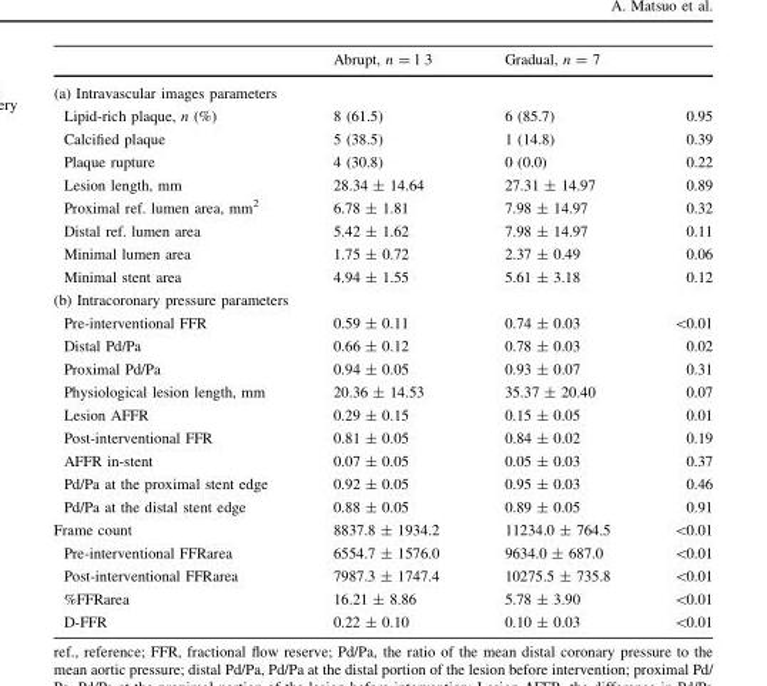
<table><thead><tr><td></td><td>Abrupt, n = l 3</td><td>Gradual, n = 7</td><td></td></tr></thead><tbody><tr><td colspan="4">(a) Intravascular images parameters</td></tr><tr><td>Lipid-rich plaque, n (%)</td><td>8 (61.5)</td><td>6 (85.7)</td><td>0.95</td></tr><tr><td>Calcified plaque</td><td>5 (38.5)</td><td>1 (14.8)</td><td>0.39</td></tr><tr><td>Plaque rupture</td><td>4 (30.8)</td><td>0 (0.0)</td><td>0.22</td></tr><tr><td>Lesion length, mm</td><td>28.34 ± 14.64</td><td>27.31 ± 14.97</td><td>0.89</td></tr><tr><td>Proximal ref. lumen area, mm<sup>2</sup></td><td>6.78 ± 1.81</td><td>7.98 ± 14.97</td><td>0.32</td></tr><tr><td>Distal ref. lumen area</td><td>5.42 ± 1.62</td><td>7.98 ± 14.97</td><td>0.11</td></tr><tr><td>Minimal lumen area</td><td>1.75 ± 0.72</td><td>2.37 ± 0.49</td><td>0.06</td></tr><tr><td>Minimal stent area</td><td>4.94 ± 1.55</td><td>5.61 ± 3.18</td><td>0.12</td></tr><tr><td colspan="4">(b) Intracoronary pressure parameters</td></tr><tr><td>Pre-interventional FFR</td><td>0.59 ± 0.11</td><td>0.74 ± 0.03</td><td>&lt;0.01</td></tr><tr><td>Distal Pd/Pa</td><td>0.66 ± 0.12</td><td>0.78 ± 0.03</td><td>0.02</td></tr><tr><td>Proximal Pd/Pa</td><td>0.94 ± 0.05</td><td>0.93 ± 0.07</td><td>0.31</td></tr><tr><td>Physiological lesion length, mm</td><td>20.36 ± 14.53</td><td>35.37 ± 20.40</td><td>0.07</td></tr><tr><td>Lesion AFFR</td><td>0.29 ± 0.15</td><td>0.15 ± 0.05</td><td>0.01</td></tr><tr><td>Post-interventional FFR</td><td>0.81 ± 0.05</td><td>0.84 ± 0.02</td><td>0.19</td></tr><tr><td>AFFR in-stent</td><td>0.07 ± 0.05</td><td>0.05 ± 0.03</td><td>0.37</td></tr><tr><td>Pd/Pa at the proximal stent edge</td><td>0.92 ± 0.05</td><td>0.95 ± 0.03</td><td>0.46</td></tr><tr><td>Pd/Pa at the distal stent edge</td><td>0.88 ± 0.05</td><td>0.89 ± 0.05</td><td>0.91</td></tr><tr><td>Frame count</td><td>8837.8 ± 1934.2</td><td>11234.0 ± 764.5</td><td>&lt;0.01</td></tr><tr><td>Pre-interventional FFRarea</td><td>6554.7 ± 1576.0</td><td>9634.0 ± 687.0</td><td>&lt;0.01</td></tr><tr><td>Post-interventional FFRarea</td><td>7987.3 ± 1747.4</td><td>10275.5 ± 735.8</td><td>&lt;0.01</td></tr><tr><td>%FFRarea</td><td>16.21 ± 8.86</td><td>5.78 ± 3.90</td><td>&lt;0.01</td></tr><tr><td>D-FFR</td><td>0.22 ± 0.10</td><td>0.10 ± 0.03</td><td>&lt;0.01</td></tr></tbody></table>